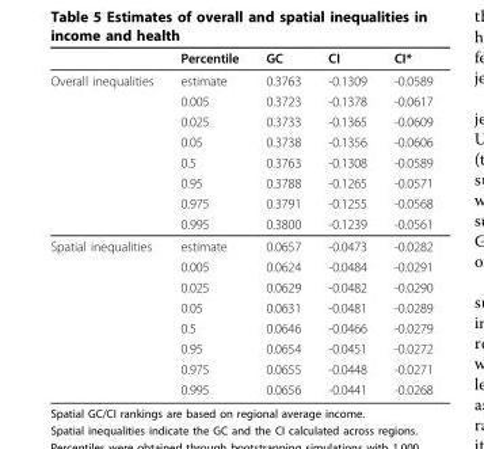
<table><thead><tr><td></td><td>Percentile</td><td>GC</td><td>CI</td><td>CI*</td></tr></thead><tbody><tr><td rowspan="8">Overall inequalities</td><td>estimate</td><td>0.3763</td><td>-0.1309</td><td>-0.0589</td></tr><tr><td>0.005</td><td>0.3723</td><td>-0.1378</td><td>-0.0617</td></tr><tr><td>0.025</td><td>0.3733</td><td>-0.1365</td><td>-0.0609</td></tr><tr><td>0.05</td><td>0.3738</td><td>-0.1356</td><td>-0.0606</td></tr><tr><td>0.5</td><td>0.3763</td><td>-0.1308</td><td>-0.0589</td></tr><tr><td>0.95</td><td>0.3788</td><td>-0.1265</td><td>-0.0571</td></tr><tr><td>0.975</td><td>0.3791</td><td>-0.1255</td><td>-0.0568</td></tr><tr><td>0.995</td><td>0.3800</td><td>-0.1239</td><td>-0.0561</td></tr><tr><td rowspan="8">Spatial inequalities</td><td>estimate</td><td>0.0657</td><td>-0.0473</td><td>-0.0282</td></tr><tr><td>0.005</td><td>0.0624</td><td>-0.0484</td><td>-0.0291</td></tr><tr><td>0.025</td><td>0.0629</td><td>-0.0482</td><td>-0.0290</td></tr><tr><td>0.05</td><td>0.0631</td><td>-0.0481</td><td>-0.0289</td></tr><tr><td>0.5</td><td>0.0646</td><td>-0.0466</td><td>-0.0279</td></tr><tr><td>0.95</td><td>0.0654</td><td>-0.0451</td><td>-0.0272</td></tr><tr><td>0.975</td><td>0.0655</td><td>-0.0448</td><td>-0.0271</td></tr><tr><td>0.995</td><td>0.0656</td><td>-0.0441</td><td>-0.0268</td></tr></tbody></table>